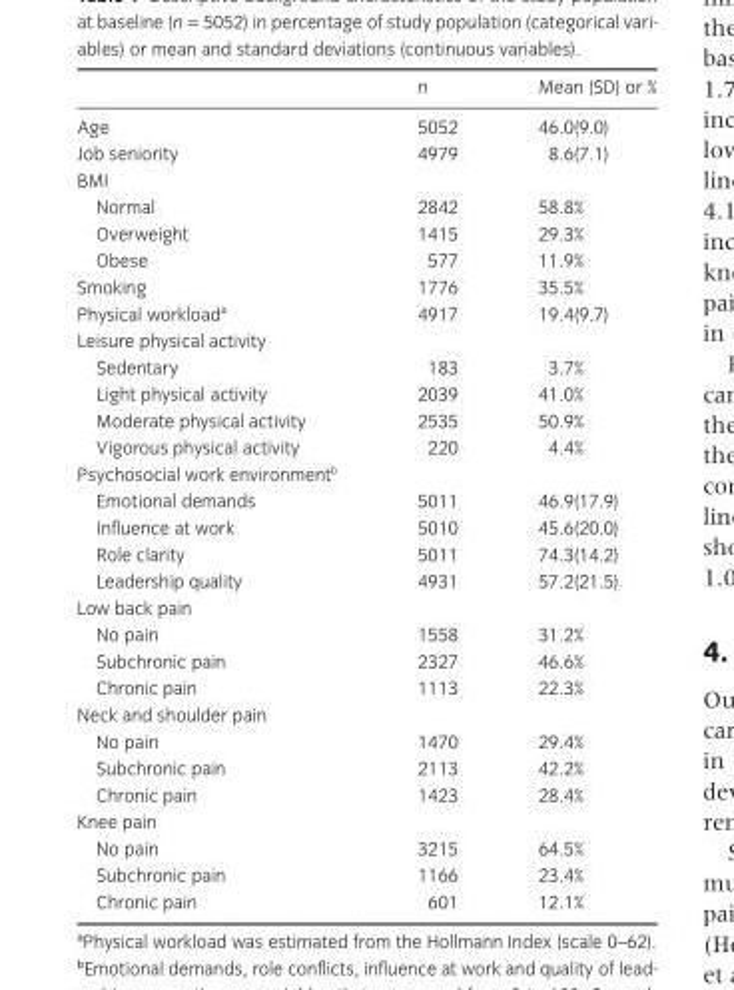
<table><thead><tr><td></td><td>n</td><td>Mean (SD) or %</td></tr></thead><tbody><tr><td>Age</td><td>5052</td><td>46.0(9.0)</td></tr><tr><td>Job seniority</td><td>4979</td><td>8.6(7.1)</td></tr><tr><td colspan="3">BMI</td></tr><tr><td>Normal</td><td>2842</td><td>58.8%</td></tr><tr><td>Overweight</td><td>1415</td><td>29.3%</td></tr><tr><td>Obese</td><td>577</td><td>11.9%</td></tr><tr><td>Smoking</td><td>1776</td><td>35.5%</td></tr><tr><td>Physical workload<sup>a</sup></td><td>4917</td><td>19.4(9.7)</td></tr><tr><td colspan="3">Leisure physical activity</td></tr><tr><td>Sedentary</td><td>183</td><td>3.7%</td></tr><tr><td>Light physical activity</td><td>2039</td><td>41.0%</td></tr><tr><td>Moderate physical activity</td><td>2535</td><td>50.9%</td></tr><tr><td>Vigorous physical activity</td><td>220</td><td>4.4%</td></tr><tr><td colspan="3">Psychosocial work environment<sup>b</sup></td></tr><tr><td>Emotional demands</td><td>5011</td><td>46.9(17.9)</td></tr><tr><td>Influence at work</td><td>5010</td><td>45.6(20.0)</td></tr><tr><td>Role clarity</td><td>5011</td><td>74.3(14.2)</td></tr><tr><td>Leadership quality</td><td>4931</td><td>57.2(21.5)</td></tr><tr><td colspan="3">Low back pain</td></tr><tr><td>No pain</td><td>1558</td><td>31.2%</td></tr><tr><td>Subchronic pain</td><td>2327</td><td>46.6%</td></tr><tr><td>Chronic pain</td><td>1113</td><td>22.3%</td></tr><tr><td colspan="3">Neck and shoulder pain</td></tr><tr><td>No pain</td><td>1470</td><td>29.4%</td></tr><tr><td>Subchronic pain</td><td>2113</td><td>42.2%</td></tr><tr><td>Chronic pain</td><td>1423</td><td>28.4%</td></tr><tr><td colspan="3">Knee pain</td></tr><tr><td>No pain</td><td>3215</td><td>64.5%</td></tr><tr><td>Subchronic pain</td><td>1166</td><td>23.4%</td></tr><tr><td>Chronic pain</td><td>601</td><td>12.1%</td></tr></tbody></table>